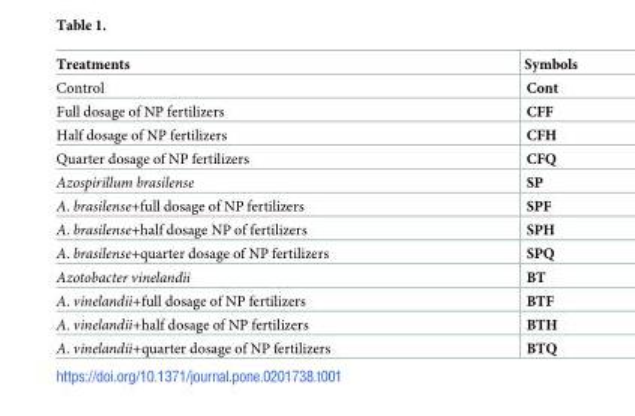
<table><thead><tr><td>Treatments</td><td>Symbols</td></tr></thead><tbody><tr><td>Control</td><td>Cont</td></tr><tr><td>Full dosage of NP fertilizers</td><td>CFF</td></tr><tr><td>Half dosage of NP fertilizers</td><td>CFH</td></tr><tr><td>Quarter dosage of NP fertilizers</td><td>CFQ</td></tr><tr><td>Azospirillum brasilense</td><td>SP</td></tr><tr><td>A. brasilense+full dosage of NP fertilizers</td><td>SPF</td></tr><tr><td>A. brasilense+half dosage NP of fertilizers</td><td>SPH</td></tr><tr><td>A. brasilense+quarter dosage of NP fertilizers</td><td>SPQ</td></tr><tr><td>Azotobacter vinelandii</td><td>BT</td></tr><tr><td>A. vinelandii+full dosage of NP fertilizers</td><td>BTF</td></tr><tr><td>A. vinelandii+half dosage of NP fertilizers</td><td>BTH</td></tr><tr><td>A. vinelandii+quarter dosage of NP fertilizers</td><td>BTQ</td></tr></tbody></table>